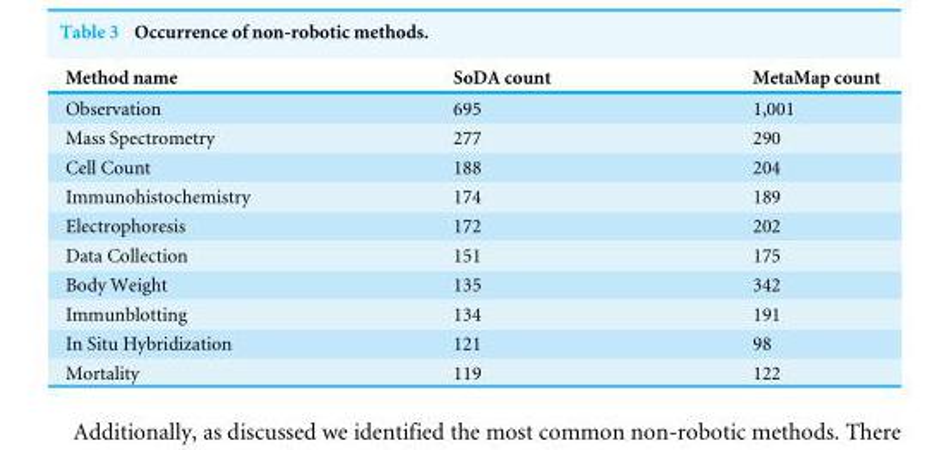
<table><thead><tr><td>Method name</td><td>SoDA count</td><td>MetaMap count</td></tr></thead><tbody><tr><td>Observation</td><td>695</td><td>1,001</td></tr><tr><td>Mass Spectrometry</td><td>277</td><td>290</td></tr><tr><td>Cell Count</td><td>188</td><td>204</td></tr><tr><td>Immunohistochemistry</td><td>174</td><td>189</td></tr><tr><td>Electrophoresis</td><td>172</td><td>202</td></tr><tr><td>Data Collection</td><td>151</td><td>175</td></tr><tr><td>Body Weight</td><td>135</td><td>342</td></tr><tr><td>Immunblotting</td><td>134</td><td>191</td></tr><tr><td>In Situ Hybridization</td><td>121</td><td>98</td></tr><tr><td>Mortality</td><td>119</td><td>122</td></tr></tbody></table>